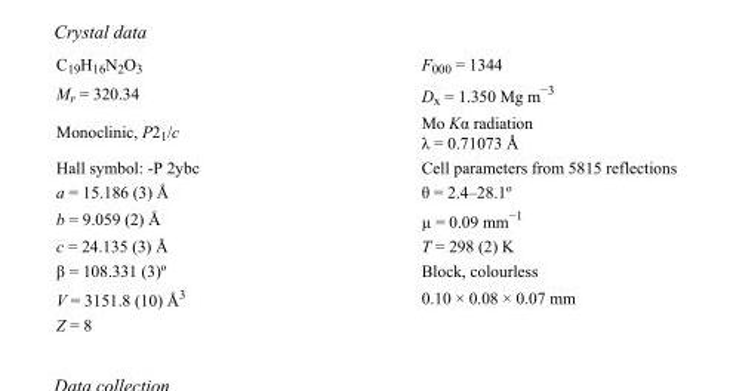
<table><tbody><tr><td>C<sub>19</sub>H<sub>16</sub>N<sub>2</sub>O<sub>3</sub></td><td>F<sub>000</sub> = 1344</td></tr><tr><td>M<sub>r</sub> = 320.34</td><td>D<sub>x</sub> = 1.350 Mg m<sup>−3</sup></td></tr><tr><td>Monoclinic, P2<sub>1</sub>/c</td><td>Mo Kα radiation λ = 0.71073 Å</td></tr><tr><td>Hall symbol: -P 2ybc</td><td>Cell parameters from 5815 reflections</td></tr><tr><td>a = 15.186 (3) Å</td><td>θ = 2.4–28.1º</td></tr><tr><td>b = 9.059 (2) Å</td><td>µ = 0.09 mm<sup>−1</sup></td></tr><tr><td>c = 24.135 (3) Å</td><td>T = 298 (2) K</td></tr><tr><td>β = 108.331 (3)º</td><td>Block, colourless</td></tr><tr><td>V = 3151.8 (10) Å<sup>3</sup></td><td>0.10 × 0.08 × 0.07 mm</td></tr><tr><td>Z = 8</td><td></td></tr></tbody></table>